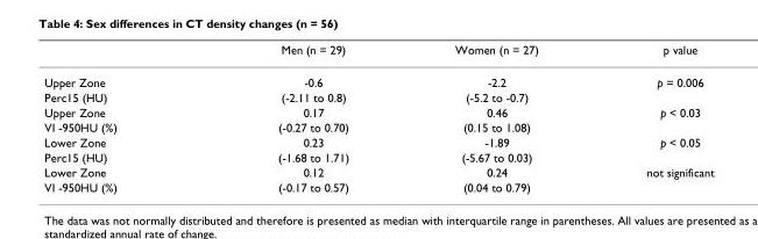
<table><thead><tr><td></td><td>Men (n = 29)</td><td>Women (n = 27)</td><td>p value</td></tr></thead><tbody><tr><td>Upper Zone</td><td>-0.6</td><td>-2.2</td><td>p = 0.006</td></tr><tr><td>Perc15 (HU)</td><td>(-2.11 to 0.8)</td><td>(-5.2 to -0.7)</td><td></td></tr><tr><td>Upper Zone</td><td>0.17</td><td>0.46</td><td>p &lt; 0.03</td></tr><tr><td>VI -950HU (%)</td><td>(-0.27 to 0.70)</td><td>(0.15 to 1.08)</td><td></td></tr><tr><td>Lower Zone</td><td>0.23</td><td>-1.89</td><td>p &lt; 0.05</td></tr><tr><td>Perc15 (HU)</td><td>(-1.68 to 1.71)</td><td>(-5.67 to 0.03)</td><td></td></tr><tr><td>Lower Zone</td><td>0.12</td><td>0.24</td><td>not significant</td></tr><tr><td>VI -950HU (%)</td><td>(-0.17 to 0.57)</td><td>(0.04 to 0.79)</td><td></td></tr></tbody></table>